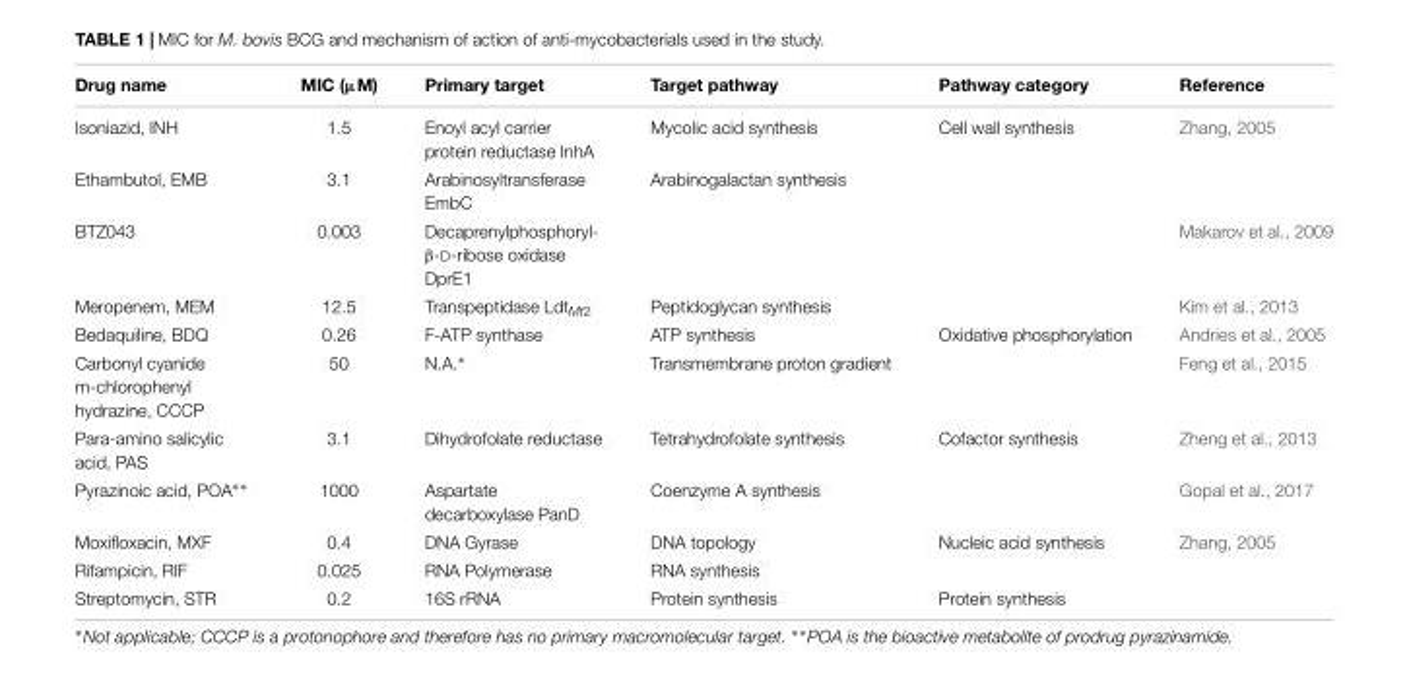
<table><thead><tr><td>Drug name</td><td>MIC (µM)</td><td>Primary target</td><td>Target pathway</td><td>Pathway category</td><td>Reference</td></tr></thead><tbody><tr><td>Isoniazid, INH</td><td>1.5</td><td>Enoyl acyl carrier protein reductase InhA</td><td>Mycolic acid synthesis</td><td>Cell wall synthesis</td><td>Zhang, 2005</td></tr><tr><td>Ethambutol, EMB</td><td>3.1</td><td>Arabinosyltransferase EmbC</td><td>Arabinogalactan synthesis</td><td></td><td></td></tr><tr><td>BTZ043</td><td>0.003</td><td>Decaprenylphosphoryl- β-D-ribose oxidase DprE1</td><td></td><td></td><td>Makarov et al., 2009</td></tr><tr><td>Meropenem, MEM</td><td>12.5</td><td>Transpeptidase Ldt<sub>Mt2</sub></td><td>Peptidoglycan synthesis</td><td></td><td>Kim et al., 2013</td></tr><tr><td>Bedaquiline, BDQ</td><td>0.26</td><td>F-ATP synthase</td><td>ATP synthesis</td><td>Oxidative phosphorylation</td><td>Andries et al., 2005</td></tr><tr><td>Carbonyl cyanide m-chlorophenyl hydrazine, CCCP</td><td>50</td><td>N.A.∗</td><td>Transmembrane proton gradient</td><td></td><td>Feng et al., 2015</td></tr><tr><td>Para-amino salicylic acid, PAS</td><td>3.1</td><td>Dihydrofolate reductase</td><td>Tetrahydrofolate synthesis</td><td>Cofactor synthesis</td><td>Zheng et al., 2013</td></tr><tr><td>Pyrazinoic acid, POA∗∗</td><td>1000</td><td>Aspartate decarboxylase PanD</td><td>Coenzyme A synthesis</td><td></td><td>Gopal et al., 2017</td></tr><tr><td>Moxifloxacin, MXF</td><td>0.4</td><td>DNA Gyrase</td><td>DNA topology</td><td>Nucleic acid synthesis</td><td>Zhang, 2005</td></tr><tr><td>Rifampicin, RIF</td><td>0.025</td><td>RNA Polymerase</td><td>RNA synthesis</td><td></td><td></td></tr><tr><td>Streptomycin, STR</td><td>0.2</td><td>16S rRNA</td><td>Protein synthesis</td><td>Protein synthesis</td><td></td></tr></tbody></table>